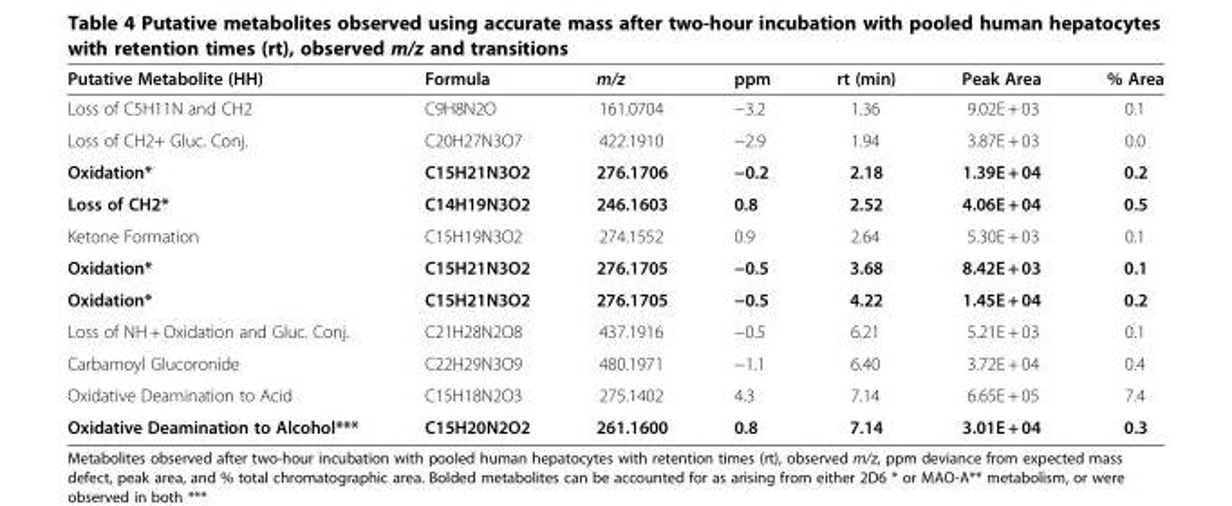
<table><thead><tr><td>Putative Metabolite (HH)</td><td>Formula</td><td>m/z</td><td>ppm</td><td>rt (min)</td><td>Peak Area</td><td>% Area</td></tr></thead><tbody><tr><td>Loss of C5H11N and CH2</td><td>C9H8N2O</td><td>161.0704</td><td>−3.2</td><td>1.36</td><td>9.02E + 03</td><td>0.1</td></tr><tr><td>Loss of CH2+ Gluc. Conj.</td><td>C20H27N3O7</td><td>422.1910</td><td>−2.9</td><td>1.94</td><td>3.87E + 03</td><td>0.0</td></tr><tr><td>Oxidation*</td><td>C15H21N3O2</td><td>276.1706</td><td>−0.2</td><td>2.18</td><td>1.39E + 04</td><td>0.2</td></tr><tr><td>Loss of CH2*</td><td>C14H19N3O2</td><td>246.1603</td><td>0.8</td><td>2.52</td><td>4.06E + 04</td><td>0.5</td></tr><tr><td>Ketone Formation</td><td>C15H19N3O2</td><td>274.1552</td><td>0.9</td><td>2.64</td><td>5.30E + 03</td><td>0.1</td></tr><tr><td>Oxidation*</td><td>C15H21N3O2</td><td>276.1705</td><td>−0.5</td><td>3.68</td><td>8.42E + 03</td><td>0.1</td></tr><tr><td>Oxidation*</td><td>C15H21N3O2</td><td>276.1705</td><td>−0.5</td><td>4.22</td><td>1.45E + 04</td><td>0.2</td></tr><tr><td>Loss of NH + Oxidation and Gluc. Conj.</td><td>C21H28N2O8</td><td>437.1916</td><td>−0.5</td><td>6.21</td><td>5.21E + 03</td><td>0.1</td></tr><tr><td>Carbamoyl Glucoronide</td><td>C22H29N3O9</td><td>480.1971</td><td>−1.1</td><td>6.40</td><td>3.72E + 04</td><td>0.4</td></tr><tr><td>Oxidative Deamination to Acid</td><td>C15H18N2O3</td><td>275.1402</td><td>4.3</td><td>7.14</td><td>6.65E + 05</td><td>7.4</td></tr><tr><td>Oxidative Deamination to Alcohol***</td><td>C15H20N2O2</td><td>261.1600</td><td>0.8</td><td>7.14</td><td>3.01E + 04</td><td>0.3</td></tr></tbody></table>